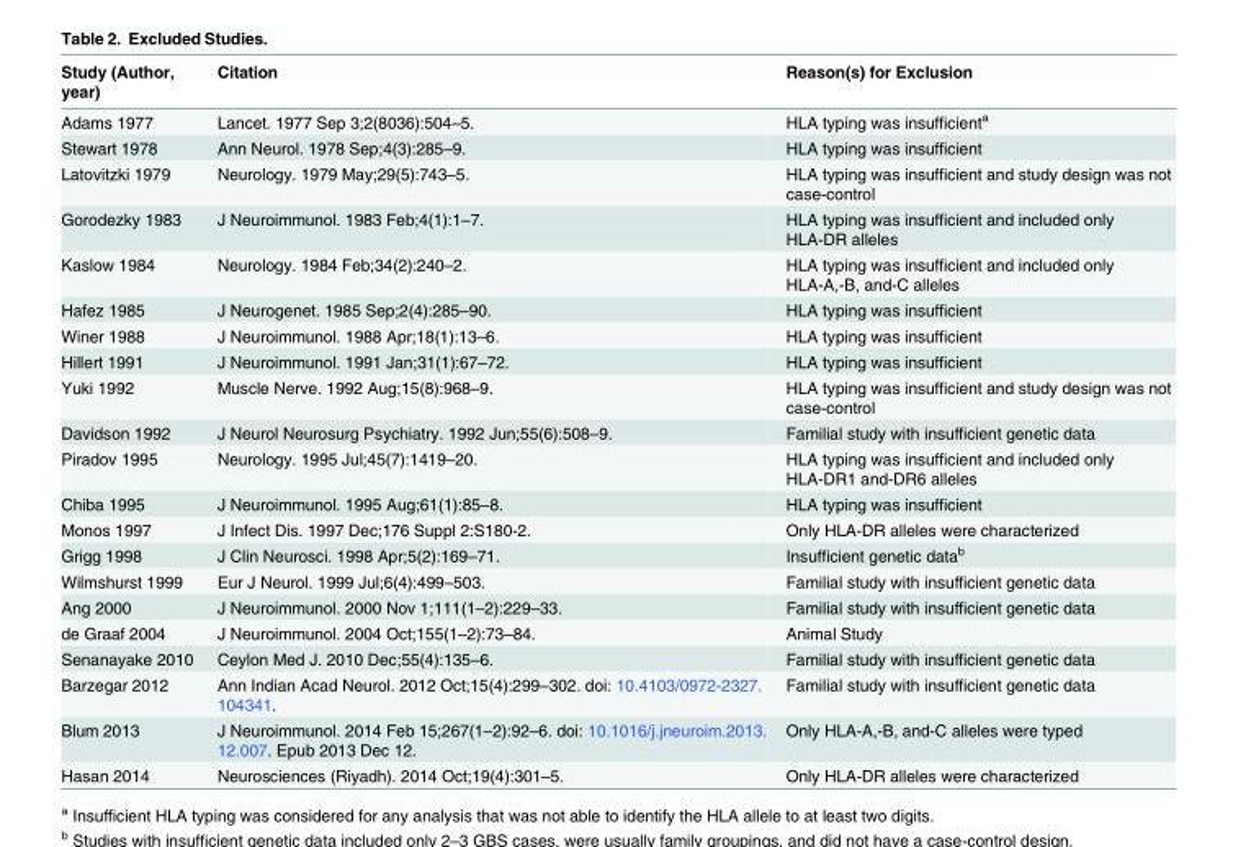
<table><thead><tr><td>Study (Author, year)</td><td>Citation</td><td>Reason(s) for Exclusion</td></tr></thead><tbody><tr><td>Adams 1977</td><td>Lancet. 1977 Sep 3;2(8036):504–5.</td><td>HLA typing was insufficient<sup>a</sup></td></tr><tr><td>Stewart 1978</td><td>Ann Neurol. 1978 Sep;4(3):285–9.</td><td>HLA typing was insufficient</td></tr><tr><td>Latovitzki 1979</td><td>Neurology. 1979 May;29(5):743–5.</td><td>HLA typing was insufficient and study design was not case-control</td></tr><tr><td>Gorodezky 1983</td><td>J Neuroimmunol. 1983 Feb;4(1):1–7.</td><td>HLA typing was insufficient and included only HLA-DR alleles</td></tr><tr><td>Kaslow 1984</td><td>Neurology. 1984 Feb;34(2):240–2.</td><td>HLA typing was insufficient and included only HLA-A,-B, and-C alleles</td></tr><tr><td>Hafez 1985</td><td>J Neurogenet. 1985 Sep;2(4):285–90.</td><td>HLA typing was insufficient</td></tr><tr><td>Winer 1988</td><td>J Neuroimmunol. 1988 Apr;18(1):13–6.</td><td>HLA typing was insufficient</td></tr><tr><td>Hillert 1991</td><td>J Neuroimmunol. 1991 Jan;31(1):67–72.</td><td>HLA typing was insufficient</td></tr><tr><td>Yuki 1992</td><td>Muscle Nerve. 1992 Aug;15(8):968–9.</td><td>HLA typing was insufficient and study design was not case-control</td></tr><tr><td>Davidson 1992</td><td>J Neurol Neurosurg Psychiatry. 1992 Jun;55(6):508–9.</td><td>Familial study with insufficient genetic data</td></tr><tr><td>Piradov 1995</td><td>Neurology. 1995 Jul;45(7):1419–20.</td><td>HLA typing was insufficient and included only HLA-DR1 and-DR6 alleles</td></tr><tr><td>Chiba 1995</td><td>J Neuroimmunol. 1995 Aug;61(1):85–8.</td><td>HLA typing was insufficient</td></tr><tr><td>Monos 1997</td><td>J Infect Dis. 1997 Dec;176 Suppl 2:S180-2.</td><td>Only HLA-DR alleles were characterized</td></tr><tr><td>Grigg 1998</td><td>J Clin Neurosci. 1998 Apr;5(2):169–71.</td><td>Insufficient genetic data<sup>b</sup></td></tr><tr><td>Wilmshurst 1999</td><td>Eur J Neurol. 1999 Jul;6(4):499–503.</td><td>Familial study with insufficient genetic data</td></tr><tr><td>Ang 2000</td><td>J Neuroimmunol. 2000 Nov 1;111(1–2):229–33.</td><td>Familial study with insufficient genetic data</td></tr><tr><td>de Graaf 2004</td><td>J Neuroimmunol. 2004 Oct;155(1–2):73–84.</td><td>Animal Study</td></tr><tr><td>Senanayake 2010</td><td>Ceylon Med J. 2010 Dec;55(4):135–6.</td><td>Familial study with insufficient genetic data</td></tr><tr><td>Barzegar 2012</td><td>Ann Indian Acad Neurol. 2012 Oct;15(4):299–302. doi: 10.4103/0972-2327. 104341.</td><td>Familial study with insufficient genetic data</td></tr><tr><td>Blum 2013</td><td>J Neuroimmunol. 2014 Feb 15;267(1–2):92–6. doi: 10.1016/j.jneuroim.2013. 12.007. Epub 2013 Dec 12.</td><td>Only HLA-A,-B, and-C alleles were typed</td></tr><tr><td>Hasan 2014</td><td>Neurosciences (Riyadh). 2014 Oct;19(4):301–5.</td><td>Only HLA-DR alleles were characterized</td></tr></tbody></table>